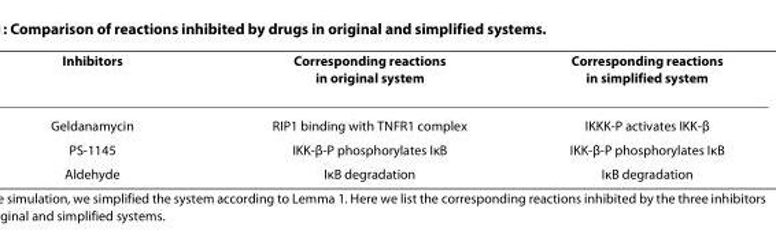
<table><thead><tr><td>Inhibitors</td><td>Corresponding reactions in original system</td><td>Corresponding reactions in simplified system</td></tr></thead><tbody><tr><td>Geldanamycin</td><td>RIP1 binding with TNFR1 complex</td><td>IKKK-P activates IKK-β</td></tr><tr><td>PS-1145</td><td>IKK-β-P phosphorylates IκB</td><td>IKK-β-P phosphorylates IκB</td></tr><tr><td>Aldehyde</td><td>IκB degradation</td><td>IκB degradation</td></tr></tbody></table>